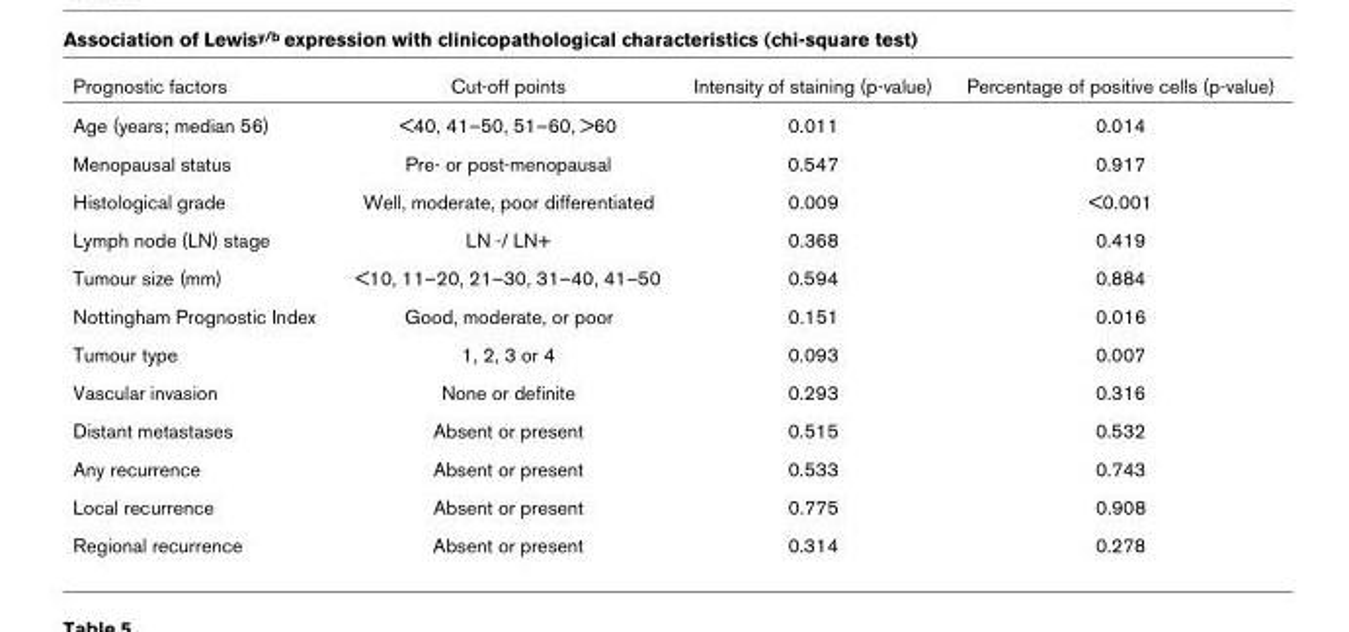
<table><thead><tr><td>Prognostic factors</td><td>Cut-off points</td><td>Intensity of staining (p-value)</td><td>Percentage of positive cells (p-value)</td></tr></thead><tbody><tr><td>Age (years; median 56)</td><td>&lt;40, 41–50, 51–60, &gt;60</td><td>0.011</td><td>0.014</td></tr><tr><td>Menopausal status</td><td>Pre- or post-menopausal</td><td>0.547</td><td>0.917</td></tr><tr><td>Histological grade</td><td>Well, moderate, poor differentiated</td><td>0.009</td><td>&lt;0.001</td></tr><tr><td>Lymph node (LN) stage</td><td>LN -/ LN+</td><td>0.368</td><td>0.419</td></tr><tr><td>Tumour size (mm)</td><td>&lt;10, 11–20, 21–30, 31–40, 41–50</td><td>0.594</td><td>0.884</td></tr><tr><td>Nottingham Prognostic Index</td><td>Good, moderate, or poor</td><td>0.151</td><td>0.016</td></tr><tr><td>Tumour type</td><td>1, 2, 3 or 4</td><td>0.093</td><td>0.007</td></tr><tr><td>Vascular invasion</td><td>None or definite</td><td>0.293</td><td>0.316</td></tr><tr><td>Distant metastases</td><td>Absent or present</td><td>0.515</td><td>0.532</td></tr><tr><td>Any recurrence</td><td>Absent or present</td><td>0.533</td><td>0.743</td></tr><tr><td>Local recurrence</td><td>Absent or present</td><td>0.775</td><td>0.908</td></tr><tr><td>Regional recurrence</td><td>Absent or present</td><td>0.314</td><td>0.278</td></tr></tbody></table>